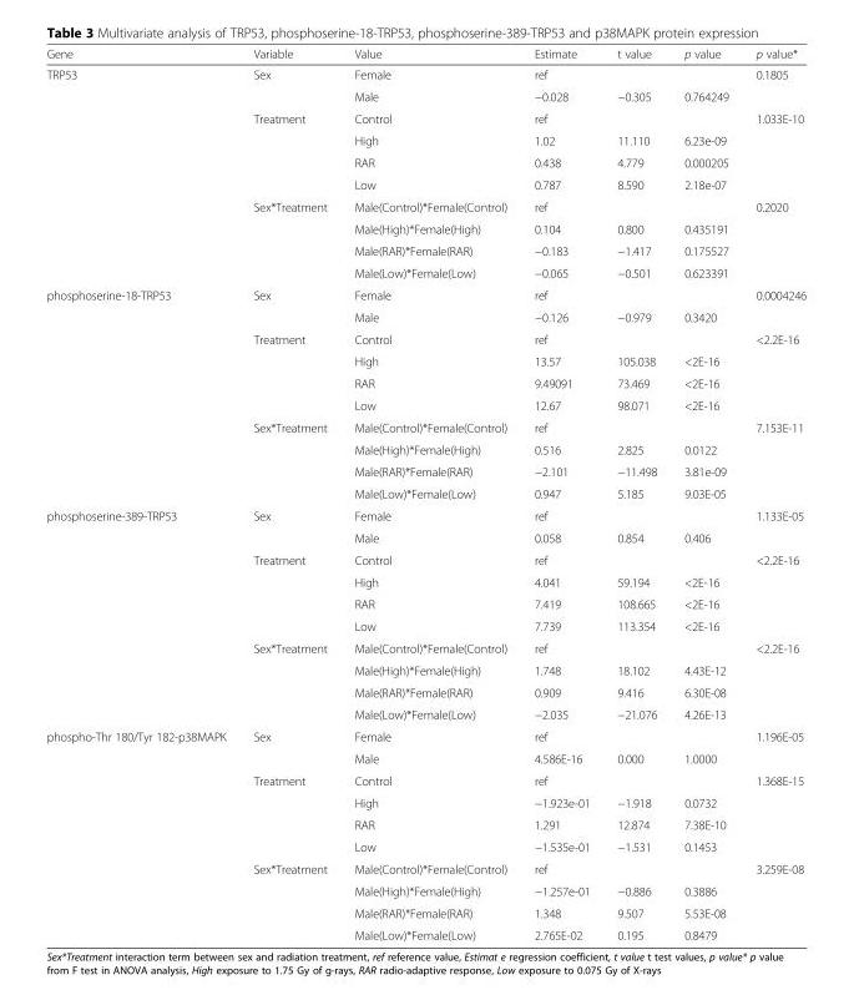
<table><thead><tr><td>Gene</td><td>Variable</td><td>Value</td><td>Estimate</td><td>t value</td><td>p value</td><td>p value*</td></tr></thead><tbody><tr><td rowspan="10">TRP53</td><td rowspan="2">Sex</td><td>Female</td><td>ref</td><td></td><td></td><td>0.1805</td></tr><tr><td>Male</td><td>−0.028</td><td>−0.305</td><td>0.764249</td><td></td></tr><tr><td rowspan="4">Treatment</td><td>Control</td><td>ref</td><td></td><td></td><td>1.033E-10</td></tr><tr><td>High</td><td>1.02</td><td>11.110</td><td>6.23e-09</td><td></td></tr><tr><td>RAR</td><td>0.438</td><td>4.779</td><td>0.000205</td><td></td></tr><tr><td>Low</td><td>0.787</td><td>8.590</td><td>2.18e-07</td><td></td></tr><tr><td rowspan="4">Sex*Treatment</td><td>Male(Control)*Female(Control)</td><td>ref</td><td></td><td></td><td>0.2020</td></tr><tr><td>Male(High)*Female(High)</td><td>0.104</td><td>0.800</td><td>0.435191</td><td></td></tr><tr><td>Male(RAR)*Female(RAR)</td><td>−0.183</td><td>−1.417</td><td>0.175527</td><td></td></tr><tr><td>Male(Low)*Female(Low)</td><td>−0.065</td><td>−0.501</td><td>0.623391</td><td></td></tr><tr><td rowspan="10">phosphoserine-18-TRP53</td><td rowspan="2">Sex</td><td>Female</td><td>ref</td><td></td><td></td><td>0.0004246</td></tr><tr><td>Male</td><td>−0.126</td><td>−0.979</td><td>0.3420</td><td></td></tr><tr><td rowspan="4">Treatment</td><td>Control</td><td>ref</td><td></td><td></td><td>&lt;2.2E-16</td></tr><tr><td>High</td><td>13.57</td><td>105.038</td><td>&lt;2E-16</td><td></td></tr><tr><td>RAR</td><td>9.49091</td><td>73.469</td><td>&lt;2E-16</td><td></td></tr><tr><td>Low</td><td>12.67</td><td>98.071</td><td>&lt;2E-16</td><td></td></tr><tr><td rowspan="4">Sex*Treatment</td><td>Male(Control)*Female(Control)</td><td>ref</td><td></td><td></td><td>7.153E-11</td></tr><tr><td>Male(High)*Female(High)</td><td>0.516</td><td>2.825</td><td>0.0122</td><td></td></tr><tr><td>Male(RAR)*Female(RAR)</td><td>−2.101</td><td>−11.498</td><td>3.81e-09</td><td></td></tr><tr><td>Male(Low)*Female(Low)</td><td>0.947</td><td>5.185</td><td>9.03E-05</td><td></td></tr><tr><td rowspan="10">phosphoserine-389-TRP53</td><td rowspan="2">Sex</td><td>Female</td><td>ref</td><td></td><td></td><td>1.133E-05</td></tr><tr><td>Male</td><td>0.058</td><td>0.854</td><td>0.406</td><td></td></tr><tr><td rowspan="4">Treatment</td><td>Control</td><td>ref</td><td></td><td></td><td>&lt;2.2E-16</td></tr><tr><td>High</td><td>4.041</td><td>59.194</td><td>&lt;2E-16</td><td></td></tr><tr><td>RAR</td><td>7.419</td><td>108.665</td><td>&lt;2E-16</td><td></td></tr><tr><td>Low</td><td>7.739</td><td>113.354</td><td>&lt;2E-16</td><td></td></tr><tr><td rowspan="4">Sex*Treatment</td><td>Male(Control)*Female(Control)</td><td>ref</td><td></td><td></td><td>&lt;2.2E-16</td></tr><tr><td>Male(High)*Female(High)</td><td>1.748</td><td>18.102</td><td>4.43E-12</td><td></td></tr><tr><td>Male(RAR)*Female(RAR)</td><td>0.909</td><td>9.416</td><td>6.30E-08</td><td></td></tr><tr><td>Male(Low)*Female(Low)</td><td>−2.035</td><td>−21.076</td><td>4.26E-13</td><td></td></tr><tr><td rowspan="10">phospho-Thr 180/Tyr 182-p38MAPK</td><td rowspan="2">Sex</td><td>Female</td><td>ref</td><td></td><td></td><td>1.196E-05</td></tr><tr><td>Male</td><td>4.586E-16</td><td>0.000</td><td>1.0000</td><td></td></tr><tr><td rowspan="4">Treatment</td><td>Control</td><td>ref</td><td></td><td></td><td>1.368E-15</td></tr><tr><td>High</td><td>−1.923e-01</td><td>−1.918</td><td>0.0732</td><td></td></tr><tr><td>RAR</td><td>1.291</td><td>12.874</td><td>7.38E-10</td><td></td></tr><tr><td>Low</td><td>−1.535e-01</td><td>−1.531</td><td>0.1453</td><td></td></tr><tr><td rowspan="4">Sex*Treatment</td><td>Male(Control)*Female(Control)</td><td>ref</td><td></td><td></td><td>3.259E-08</td></tr><tr><td>Male(High)*Female(High)</td><td>−1.257e-01</td><td>−0.886</td><td>0.3886</td><td></td></tr><tr><td>Male(RAR)*Female(RAR)</td><td>1.348</td><td>9.507</td><td>5.53E-08</td><td></td></tr><tr><td>Male(Low)*Female(Low)</td><td>2.765E-02</td><td>0.195</td><td>0.8479</td><td></td></tr></tbody></table>